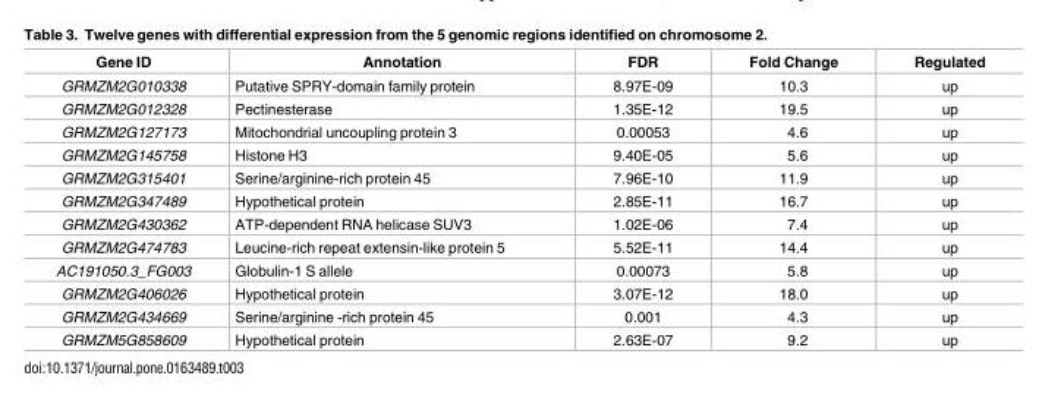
<table><thead><tr><td>Gene ID</td><td>Annotation</td><td>FDR</td><td>Fold Change</td><td>Regulated</td></tr></thead><tbody><tr><td>GRMZM2G010338</td><td>Putative SPRY-domain family protein</td><td>8.97E-09</td><td>10.3</td><td>up</td></tr><tr><td>GRMZM2G012328</td><td>Pectinesterase</td><td>1.35E-12</td><td>19.5</td><td>up</td></tr><tr><td>GRMZM2G127173</td><td>Mitochondrial uncoupling protein 3</td><td>0.00053</td><td>4.6</td><td>up</td></tr><tr><td>GRMZM2G145758</td><td>Histone H3</td><td>9.40E-05</td><td>5.6</td><td>up</td></tr><tr><td>GRMZM2G315401</td><td>Serine/arginine-rich protein 45</td><td>7.96E-10</td><td>11.9</td><td>up</td></tr><tr><td>GRMZM2G347489</td><td>Hypothetical protein</td><td>2.85E-11</td><td>16.7</td><td>up</td></tr><tr><td>GRMZM2G430362</td><td>ATP-dependent RNA helicase SUV3</td><td>1.02E-06</td><td>7.4</td><td>up</td></tr><tr><td>GRMZM2G474783</td><td>Leucine-rich repeat extensin-like protein 5</td><td>5.52E-11</td><td>14.4</td><td>up</td></tr><tr><td>AC191050.3_FG003</td><td>Globulin-1 S allele</td><td>0.00073</td><td>5.8</td><td>up</td></tr><tr><td>GRMZM2G406026</td><td>Hypothetical protein</td><td>3.07E-12</td><td>18.0</td><td>up</td></tr><tr><td>GRMZM2G434669</td><td>Serine/arginine -rich protein 45</td><td>0.001</td><td>4.3</td><td>up</td></tr><tr><td>GRMZM5G858609</td><td>Hypothetical protein</td><td>2.63E-07</td><td>9.2</td><td>up</td></tr></tbody></table>